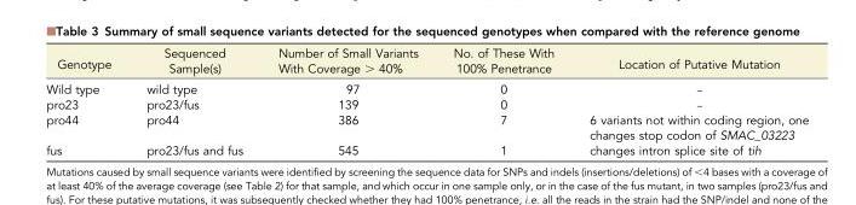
<table><thead><tr><td>Genotype</td><td>Sequenced Sample(s)</td><td>Number of Small Variants With Coverage &gt; 40%</td><td>No. of These With 100% Penetrance</td><td>Location of Putative Mutation</td></tr></thead><tbody><tr><td>Wild type</td><td>wild type</td><td>97</td><td>0</td><td>–</td></tr><tr><td>pro23</td><td>pro23/fus</td><td>139</td><td>0</td><td>–</td></tr><tr><td>pro44</td><td>pro44</td><td>386</td><td>7</td><td>6 variants not within coding region, one changes stop codon of SMAC_03223</td></tr><tr><td>fus</td><td>pro23/fus and fus</td><td>545</td><td>1</td><td>changes intron splice site of tih</td></tr></tbody></table>